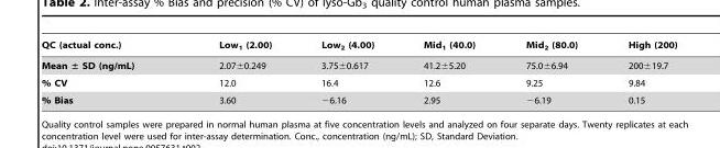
<table><thead><tr><td>QC (actual conc.)</td><td>Low<sub>1</sub> (2.00)</td><td>Low<sub>2</sub> (4.00)</td><td>Mid<sub>1</sub> (40.0)</td><td>Mid<sub>2</sub> (80.0)</td><td>High (200)</td></tr></thead><tbody><tr><td>Mean ± SD (ng/mL)</td><td>2.07±0.249</td><td>3.75±0.617</td><td>41.2±5.20</td><td>75.0±6.94</td><td>200±19.7</td></tr><tr><td>% CV</td><td>12.0</td><td>16.4</td><td>12.6</td><td>9.25</td><td>9.84</td></tr><tr><td>% Bias</td><td>3.60</td><td>−6.16</td><td>2.95</td><td>−6.19</td><td>0.15</td></tr></tbody></table>